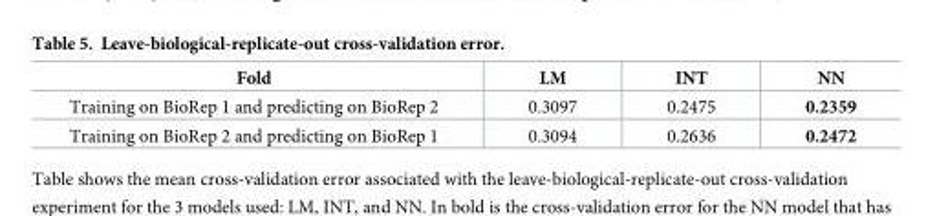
<table><thead><tr><td>Fold</td><td>LM</td><td>INT</td><td>NN</td></tr></thead><tbody><tr><td>Training on BioRep 1 and predicting on BioRep 2</td><td>0.3097</td><td>0.2475</td><td>0.2359</td></tr><tr><td>Training on BioRep 2 and predicting on BioRep 1</td><td>0.3094</td><td>0.2636</td><td>0.2472</td></tr></tbody></table>